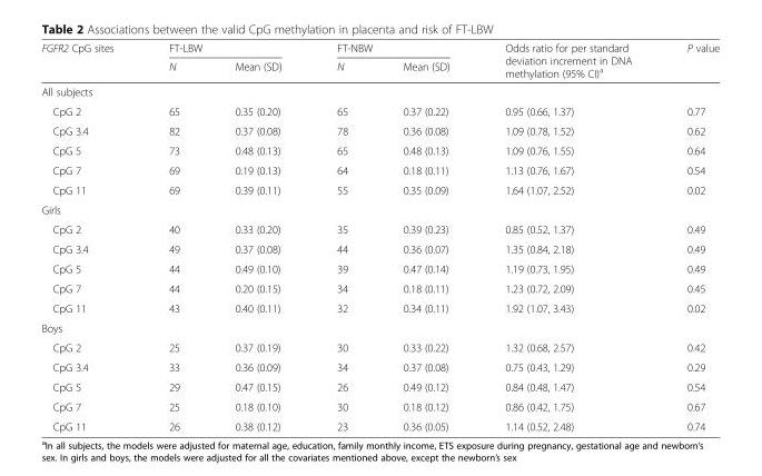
<table><thead><tr><td rowspan="2">FGFR2 CpG sites</td><td colspan="2">FT-LBW</td><td colspan="2">FT-NBW</td><td rowspan="2">Odds ratio for per standard deviation increment in DNA methylation (95% CI)<sup>a</sup></td><td rowspan="2">P value</td></tr><tr><td>N</td><td>Mean (SD)</td><td>N</td><td>Mean (SD)</td></tr></thead><tbody><tr><td colspan="7">All subjects</td></tr><tr><td>CpG 2</td><td>65</td><td>0.35 (0.20)</td><td>65</td><td>0.37 (0.22)</td><td>0.95 (0.66, 1.37)</td><td>0.77</td></tr><tr><td>CpG 3.4</td><td>82</td><td>0.37 (0.08)</td><td>78</td><td>0.36 (0.08)</td><td>1.09 (0.78, 1.52)</td><td>0.62</td></tr><tr><td>CpG 5</td><td>73</td><td>0.48 (0.13)</td><td>65</td><td>0.48 (0.13)</td><td>1.09 (0.76, 1.55)</td><td>0.64</td></tr><tr><td>CpG 7</td><td>69</td><td>0.19 (0.13)</td><td>64</td><td>0.18 (0.11)</td><td>1.13 (0.76, 1.67)</td><td>0.54</td></tr><tr><td>CpG 11</td><td>69</td><td>0.39 (0.11)</td><td>55</td><td>0.35 (0.09)</td><td>1.64 (1.07, 2.52)</td><td>0.02</td></tr><tr><td colspan="7">Girls</td></tr><tr><td>CpG 2</td><td>40</td><td>0.33 (0.20)</td><td>35</td><td>0.39 (0.23)</td><td>0.85 (0.52, 1.37)</td><td>0.49</td></tr><tr><td>CpG 3.4</td><td>49</td><td>0.37 (0.08)</td><td>44</td><td>0.36 (0.07)</td><td>1.35 (0.84, 2.18)</td><td>0.49</td></tr><tr><td>CpG 5</td><td>44</td><td>0.49 (0.10)</td><td>39</td><td>0.47 (0.14)</td><td>1.19 (0.73, 1.95)</td><td>0.49</td></tr><tr><td>CpG 7</td><td>44</td><td>0.20 (0.15)</td><td>34</td><td>0.18 (0.11)</td><td>1.23 (0.72, 2.09)</td><td>0.45</td></tr><tr><td>CpG 11</td><td>43</td><td>0.40 (0.11)</td><td>32</td><td>0.34 (0.11)</td><td>1.92 (1.07, 3.43)</td><td>0.02</td></tr><tr><td colspan="7">Boys</td></tr><tr><td>CpG 2</td><td>25</td><td>0.37 (0.19)</td><td>30</td><td>0.33 (0.22)</td><td>1.32 (0.68, 2.57)</td><td>0.42</td></tr><tr><td>CpG 3.4</td><td>33</td><td>0.36 (0.09)</td><td>34</td><td>0.37 (0.08)</td><td>0.75 (0.43, 1.29)</td><td>0.29</td></tr><tr><td>CpG 5</td><td>29</td><td>0.47 (0.15)</td><td>26</td><td>0.49 (0.12)</td><td>0.84 (0.48, 1.47)</td><td>0.54</td></tr><tr><td>CpG 7</td><td>25</td><td>0.18 (0.10)</td><td>30</td><td>0.18 (0.12)</td><td>0.86 (0.42, 1.75)</td><td>0.67</td></tr><tr><td>CpG 11</td><td>26</td><td>0.38 (0.12)</td><td>23</td><td>0.36 (0.05)</td><td>1.14 (0.52, 2.48)</td><td>0.74</td></tr></tbody></table>